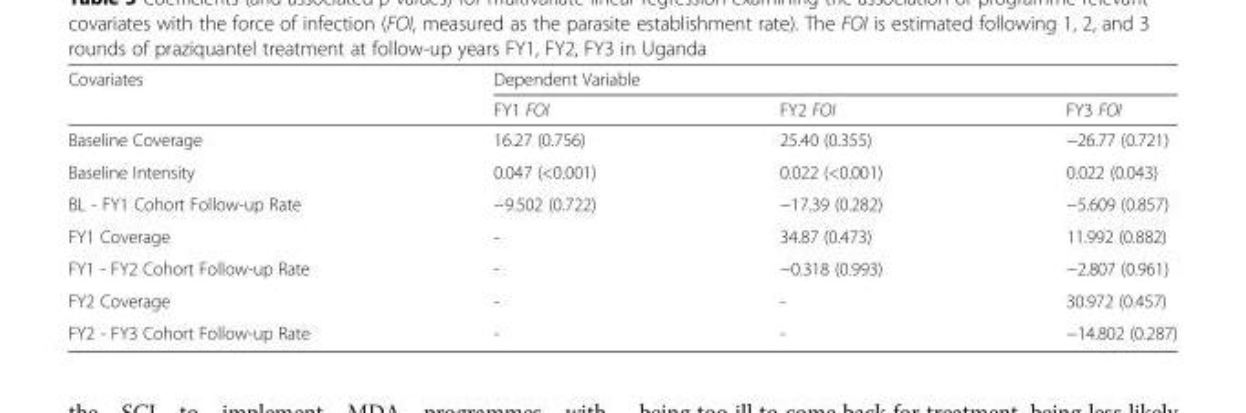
<table><thead><tr><td rowspan="2">Covariates</td><td colspan="3">Dependent Variable</td></tr><tr><td>FY1 FOI</td><td>FY2 FOI</td><td>FY3 FOI</td></tr></thead><tbody><tr><td>Baseline Coverage</td><td>16.27 (0.756)</td><td>25.40 (0.355)</td><td>−26.77 (0.721)</td></tr><tr><td>Baseline Intensity</td><td>0.047 (&lt;0.001)</td><td>0.022 (&lt;0.001)</td><td>0.022 (0.043)</td></tr><tr><td>BL - FY1 Cohort Follow-up Rate</td><td>−9.502 (0.722)</td><td>−17.39 (0.282)</td><td>−5.609 (0.857)</td></tr><tr><td>FY1 Coverage</td><td>-</td><td>34.87 (0.473)</td><td>11.992 (0.882)</td></tr><tr><td>FY1 - FY2 Cohort Follow-up Rate</td><td>-</td><td>−0.318 (0.993)</td><td>−2.807 (0.961)</td></tr><tr><td>FY2 Coverage</td><td>-</td><td>-</td><td>30.972 (0.457)</td></tr><tr><td>FY2 - FY3 Cohort Follow-up Rate</td><td>-</td><td>-</td><td>−14.802 (0.287)</td></tr></tbody></table>